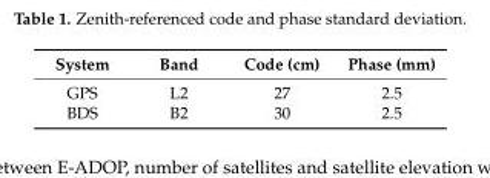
<table><thead><tr><td>System</td><td>Band</td><td>Code (cm)</td><td>Phase (mm)</td></tr></thead><tbody><tr><td>GPS</td><td>L2</td><td>27</td><td>2.5</td></tr><tr><td>BDS</td><td>B2</td><td>30</td><td>2.5</td></tr></tbody></table>